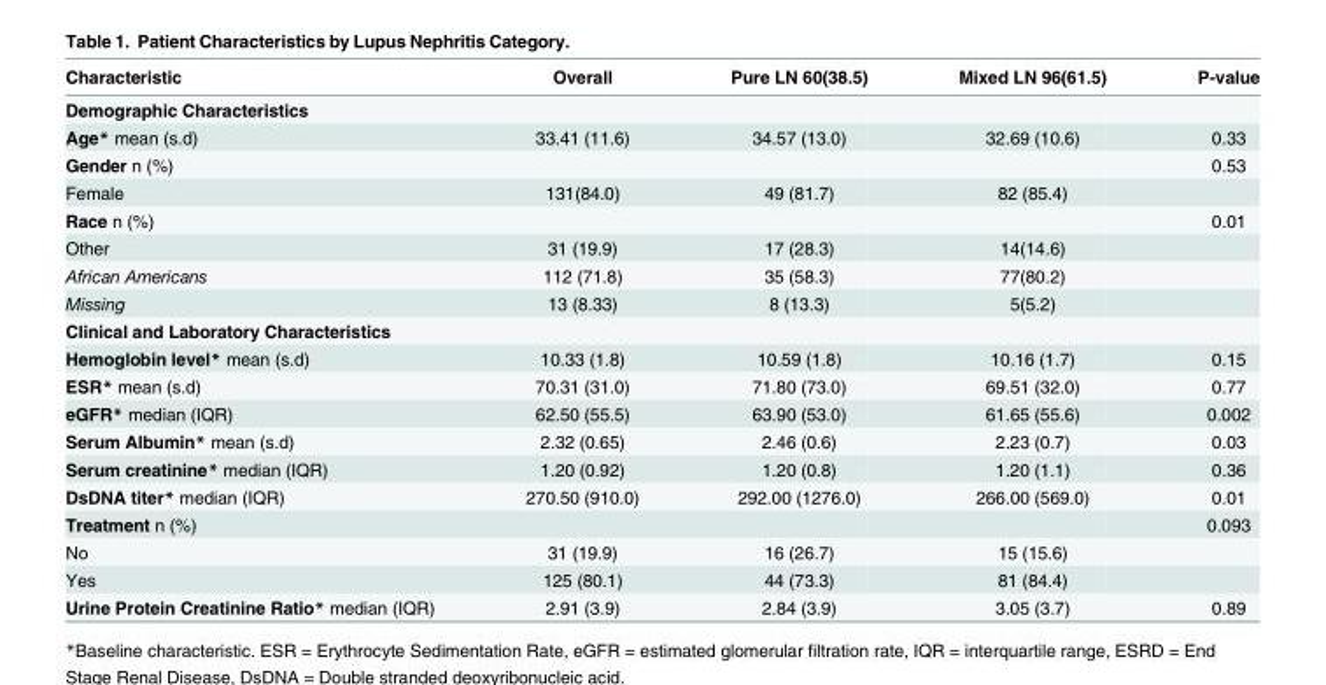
<table><thead><tr><td>Characteristic</td><td>Overall</td><td>Pure LN 60(38.5)</td><td>Mixed LN 96(61.5)</td><td>P-value</td></tr></thead><tbody><tr><td colspan="5">Demographic Characteristics</td></tr><tr><td>Age* mean (s.d)</td><td>33.41 (11.6)</td><td>34.57 (13.0)</td><td>32.69 (10.6)</td><td>0.33</td></tr><tr><td>Gender n (%)</td><td></td><td></td><td></td><td>0.53</td></tr><tr><td>Female</td><td>131(84.0)</td><td>49 (81.7)</td><td>82 (85.4)</td><td></td></tr><tr><td>Race n (%)</td><td></td><td></td><td></td><td>0.01</td></tr><tr><td>Other</td><td>31 (19.9)</td><td>17 (28.3)</td><td>14(14.6)</td><td></td></tr><tr><td>African Americans</td><td>112 (71.8)</td><td>35 (58.3)</td><td>77(80.2)</td><td></td></tr><tr><td>Missing</td><td>13 (8.33)</td><td>8 (13.3)</td><td>5(5.2)</td><td></td></tr><tr><td colspan="5">Clinical and Laboratory Characteristics</td></tr><tr><td>Hemoglobin level* mean (s.d)</td><td>10.33 (1.8)</td><td>10.59 (1.8)</td><td>10.16 (1.7)</td><td>0.15</td></tr><tr><td>ESR* mean (s.d)</td><td>70.31 (31.0)</td><td>71.80 (73.0)</td><td>69.51 (32.0)</td><td>0.77</td></tr><tr><td>eGFR* median (IQR)</td><td>62.50 (55.5)</td><td>63.90 (53.0)</td><td>61.65 (55.6)</td><td>0.002</td></tr><tr><td>Serum Albumin* mean (s.d)</td><td>2.32 (0.65)</td><td>2.46 (0.6)</td><td>2.23 (0.7)</td><td>0.03</td></tr><tr><td>Serum creatinine* median (IQR)</td><td>1.20 (0.92)</td><td>1.20 (0.8)</td><td>1.20 (1.1)</td><td>0.36</td></tr><tr><td>DsDNA titer* median (IQR)</td><td>270.50 (910.0)</td><td>292.00 (1276.0)</td><td>266.00 (569.0)</td><td>0.01</td></tr><tr><td>Treatment n (%)</td><td></td><td></td><td></td><td>0.093</td></tr><tr><td>No</td><td>31 (19.9)</td><td>16 (26.7)</td><td>15 (15.6)</td><td></td></tr><tr><td>Yes</td><td>125 (80.1)</td><td>44 (73.3)</td><td>81 (84.4)</td><td></td></tr><tr><td>Urine Protein Creatinine Ratio* median (IQR)</td><td>2.91 (3.9)</td><td>2.84 (3.9)</td><td>3.05 (3.7)</td><td>0.89</td></tr></tbody></table>